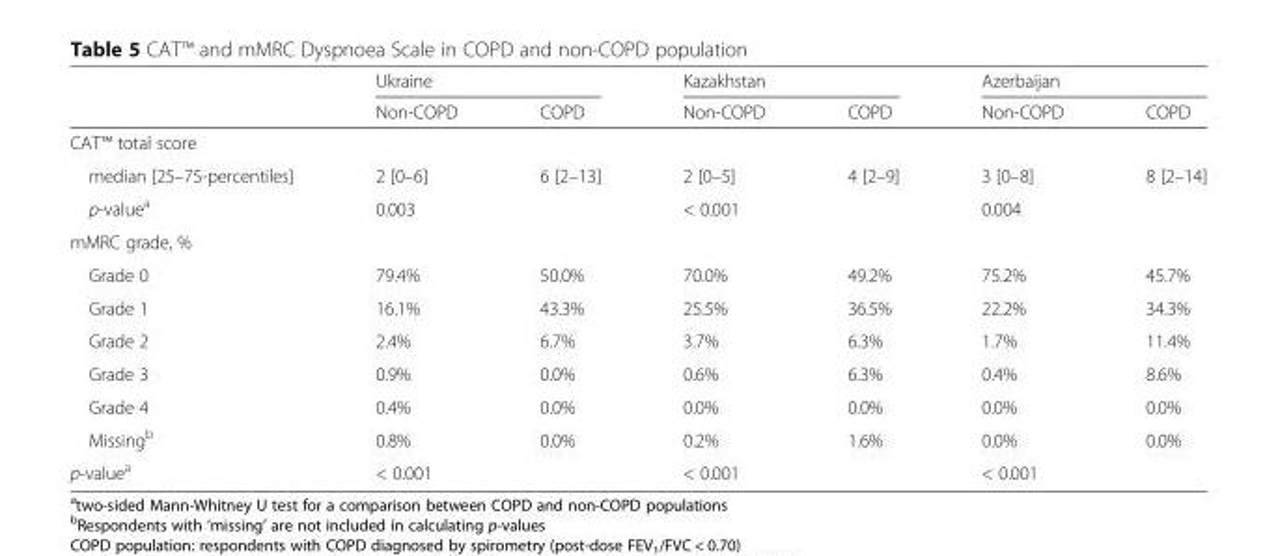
<table><thead><tr><td rowspan="2"></td><td colspan="2">Ukraine</td><td colspan="2">Kazakhstan</td><td colspan="2">Azerbaijan</td></tr><tr><td>Non-COPD</td><td>COPD</td><td>Non-COPD</td><td>COPD</td><td>Non-COPD</td><td>COPD</td></tr></thead><tbody><tr><td colspan="7">CAT™ total score</td></tr><tr><td>median [25–75-percentiles]</td><td>2 [0–6]</td><td>6 [2–13]</td><td>2 [0–5]</td><td>4 [2–9]</td><td>3 [0–8]</td><td>8 [2–14]</td></tr><tr><td>p-value<sup>a</sup></td><td colspan="2">0.003</td><td colspan="2">&lt; 0.001</td><td colspan="2">0.004</td></tr><tr><td colspan="7">mMRC grade, %</td></tr><tr><td>Grade 0</td><td>79.4%</td><td>50.0%</td><td>70.0%</td><td>49.2%</td><td>75.2%</td><td>45.7%</td></tr><tr><td>Grade 1</td><td>16.1%</td><td>43.3%</td><td>25.5%</td><td>36.5%</td><td>22.2%</td><td>34.3%</td></tr><tr><td>Grade 2</td><td>2.4%</td><td>6.7%</td><td>3.7%</td><td>6.3%</td><td>1.7%</td><td>11.4%</td></tr><tr><td>Grade 3</td><td>0.9%</td><td>0.0%</td><td>0.6%</td><td>6.3%</td><td>0.4%</td><td>8.6%</td></tr><tr><td>Grade 4</td><td>0.4%</td><td>0.0%</td><td>0.0%</td><td>0.0%</td><td>0.0%</td><td>0.0%</td></tr><tr><td>Missing<sup>b</sup></td><td>0.8%</td><td>0.0%</td><td>0.2%</td><td>1.6%</td><td>0.0%</td><td>0.0%</td></tr><tr><td>p-value<sup>a</sup></td><td colspan="2">&lt; 0.001</td><td colspan="2">&lt; 0.001</td><td colspan="2">&lt; 0.001</td></tr></tbody></table>